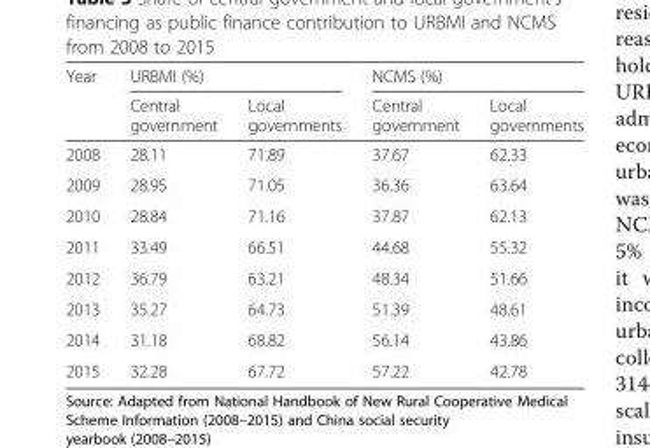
<table><thead><tr><td rowspan="2">Year</td><td colspan="2">URBMI (%)</td><td colspan="2">NCMS (%)</td></tr><tr><td>Central government</td><td>Local governments</td><td>Central government</td><td>Local governments</td></tr></thead><tbody><tr><td>2008</td><td>28.11</td><td>71.89</td><td>37.67</td><td>62.33</td></tr><tr><td>2009</td><td>28.95</td><td>71.05</td><td>36.36</td><td>63.64</td></tr><tr><td>2010</td><td>28.84</td><td>71.16</td><td>37.87</td><td>62.13</td></tr><tr><td>2011</td><td>33.49</td><td>66.51</td><td>44.68</td><td>55.32</td></tr><tr><td>2012</td><td>36.79</td><td>63.21</td><td>48.34</td><td>51.66</td></tr><tr><td>2013</td><td>35.27</td><td>64.73</td><td>51.39</td><td>48.61</td></tr><tr><td>2014</td><td>31.18</td><td>68.82</td><td>56.14</td><td>43.86</td></tr><tr><td>2015</td><td>32.28</td><td>67.72</td><td>57.22</td><td>42.78</td></tr></tbody></table>